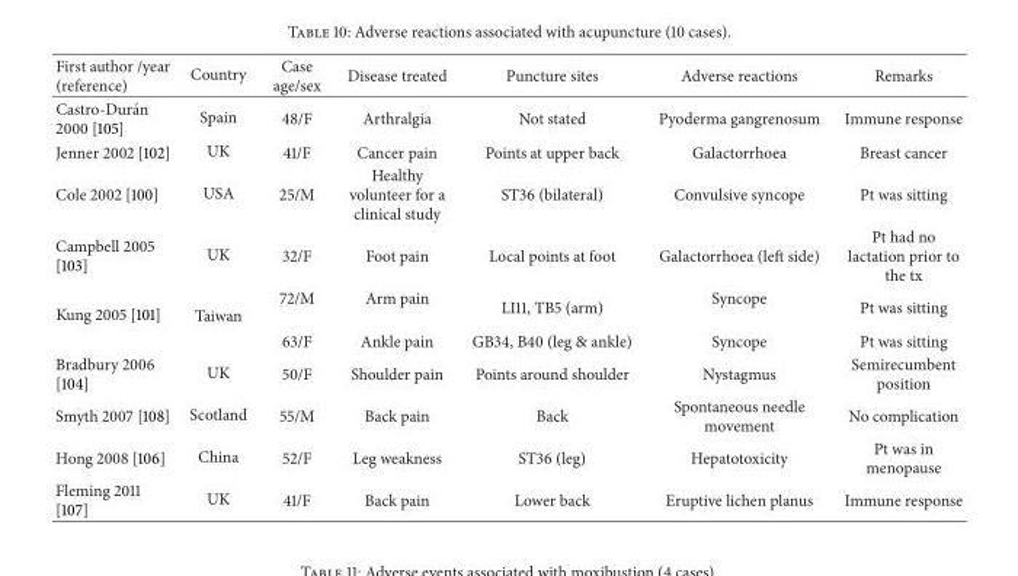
<table><thead><tr><td>First author /year (reference)</td><td>Country</td><td>Case age/sex</td><td>Disease treated</td><td>Puncture sites</td><td>Adverse reactions</td><td>Remarks</td></tr></thead><tbody><tr><td>Castro-Dur´an 2000 [105]</td><td>Spain</td><td>48/F</td><td>Arthralgia</td><td>Not stated</td><td>Pyoderma gangrenosum</td><td>Immune response</td></tr><tr><td>Jenner 2002 [102]</td><td>UK</td><td>41/F</td><td>Cancer pain</td><td>Points at upper back</td><td>Galactorrhoea</td><td>Breast cancer</td></tr><tr><td>Cole 2002 [100]</td><td>USA</td><td>25/M</td><td>Healthy volunteer for a clinical study</td><td>ST36 (bilateral)</td><td>Convulsive syncope</td><td>Pt was sitting</td></tr><tr><td>Campbell 2005 [103]</td><td>UK</td><td>32/F</td><td>Foot pain</td><td>Local points at foot</td><td>Galactorrhoea (left side)</td><td>Pt had no lactation prior to the tx</td></tr><tr><td rowspan="2">Kung 2005 [101]</td><td rowspan="2">Taiwan</td><td>72/M</td><td>Arm pain</td><td>LI11, TB5 (arm)</td><td>Syncope</td><td>Pt was sitting</td></tr><tr><td>63/F</td><td>Ankle pain</td><td>GB34, B40 (leg &amp; ankle)</td><td>Syncope</td><td>Pt was sitting</td></tr><tr><td>Bradbury 2006 [104]</td><td>UK</td><td>50/F</td><td>Shoulder pain</td><td>Points around shoulder</td><td>Nystagmus</td><td>Semirecumbent position</td></tr><tr><td>Smyth 2007 [108]</td><td>Scotland</td><td>55/M</td><td>Back pain</td><td>Back</td><td>Spontaneous needle movement</td><td>No complication</td></tr><tr><td>Hong 2008 [106]</td><td>China</td><td>52/F</td><td>Leg weakness</td><td>ST36 (leg)</td><td>Hepatotoxicity</td><td>Pt was in menopause</td></tr><tr><td>Fleming 2011 [107]</td><td>UK</td><td>41/F</td><td>Back pain</td><td>Lower back</td><td>Eruptive lichen planus</td><td>Immune response</td></tr></tbody></table>